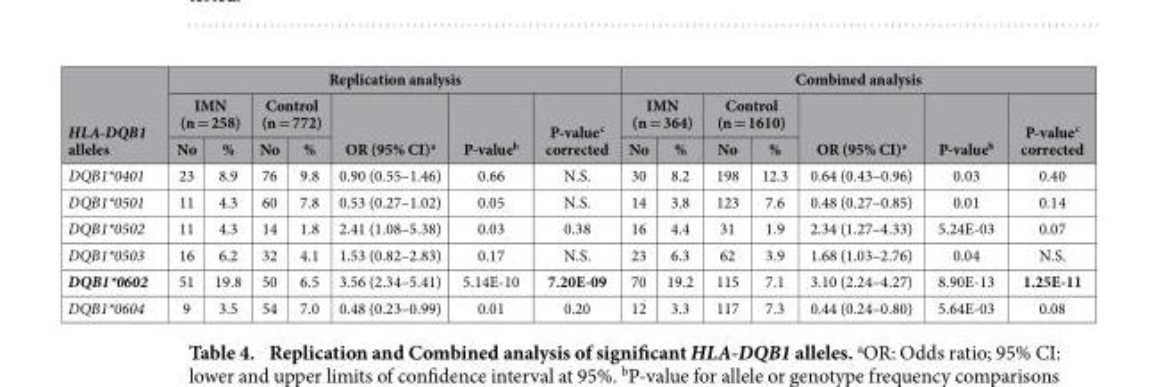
<table><thead><tr><td rowspan="3">HLA-DQB1 alleles</td><td colspan="7">Replication analysis</td><td colspan="7">Combined analysis</td></tr><tr><td colspan="2">IMN (n = 258)</td><td colspan="2">Control (n = 772)</td><td rowspan="2">OR (95% CI)<sup>a</sup></td><td rowspan="2">P-value<sup>b</sup></td><td rowspan="2">P-value<sup>c</sup> corrected</td><td colspan="2">IMN (n = 364)</td><td colspan="2">Control (n = 1610)</td><td rowspan="2">OR (95% CI)<sup>a</sup></td><td rowspan="2">P-value<sup>b</sup></td><td rowspan="2">P-value<sup>c</sup> corrected</td></tr><tr><td>No</td><td>%</td><td>No</td><td>%</td><td>No</td><td>%</td><td>No</td><td>%</td></tr></thead><tbody><tr><td>DQB1*0401</td><td>23</td><td>8.9</td><td>76</td><td>9.8</td><td>0.90 (0.55–1.46)</td><td>0.66</td><td>N.S.</td><td>30</td><td>8.2</td><td>198</td><td>12.3</td><td>0.64 (0.43–0.96)</td><td>0.03</td><td>0.40</td></tr><tr><td>DQB1*0501</td><td>11</td><td>4.3</td><td>60</td><td>7.8</td><td>0.53 (0.27–1.02)</td><td>0.05</td><td>N.S.</td><td>14</td><td>3.8</td><td>123</td><td>7.6</td><td>0.48 (0.27–0.85)</td><td>0.01</td><td>0.14</td></tr><tr><td>DQB1*0502</td><td>11</td><td>4.3</td><td>14</td><td>1.8</td><td>2.41 (1.08–5.38)</td><td>0.03</td><td>0.38</td><td>16</td><td>4.4</td><td>31</td><td>1.9</td><td>2.34 (1.27–4.33)</td><td>5.24E-03</td><td>0.07</td></tr><tr><td>DQB1*0503</td><td>16</td><td>6.2</td><td>32</td><td>4.1</td><td>1.53 (0.82–2.83)</td><td>0.17</td><td>N.S.</td><td>23</td><td>6.3</td><td>62</td><td>3.9</td><td>1.68 (1.03–2.76)</td><td>0.04</td><td>N.S.</td></tr><tr><td>DQB1*0602</td><td>51</td><td>19.8</td><td>50</td><td>6.5</td><td>3.56 (2.34–5.41)</td><td>5.14E-10</td><td>7.20E-09</td><td>70</td><td>19.2</td><td>115</td><td>7.1</td><td>3.10 (2.24–4.27)</td><td>8.90E-13</td><td>1.25E-11</td></tr><tr><td>DQB1*0604</td><td>9</td><td>3.5</td><td>54</td><td>7.0</td><td>0.48 (0.23–0.99)</td><td>0.01</td><td>0.20</td><td>12</td><td>3.3</td><td>117</td><td>7.3</td><td>0.44 (0.24–0.80)</td><td>5.64E-03</td><td>0.08</td></tr></tbody></table>